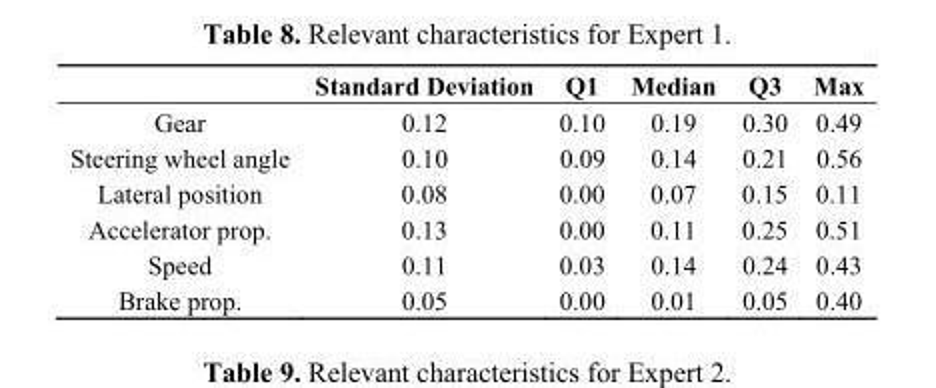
<table><thead><tr><td></td><td>Standard Deviation</td><td>Q1</td><td>Median</td><td>Q3</td><td>Max</td></tr></thead><tbody><tr><td>Gear</td><td>0.12</td><td>0.10</td><td>0.19</td><td>0.30</td><td>0.49</td></tr><tr><td>Steering wheel angle</td><td>0.10</td><td>0.09</td><td>0.14</td><td>0.21</td><td>0.56</td></tr><tr><td>Lateral position</td><td>0.08</td><td>0.00</td><td>0.07</td><td>0.15</td><td>0.11</td></tr><tr><td>Accelerator prop.</td><td>0.13</td><td>0.00</td><td>0.11</td><td>0.25</td><td>0.51</td></tr><tr><td>Speed</td><td>0.11</td><td>0.03</td><td>0.14</td><td>0.24</td><td>0.43</td></tr><tr><td>Brake prop.</td><td>0.05</td><td>0.00</td><td>0.01</td><td>0.05</td><td>0.40</td></tr></tbody></table>